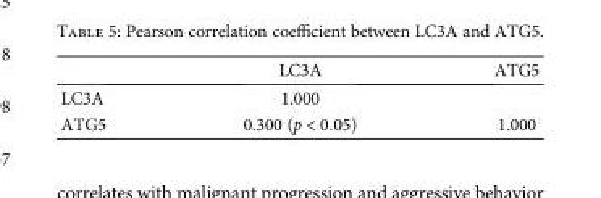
<table><thead><tr><td></td><td>LC3A</td><td>ATG5</td></tr></thead><tbody><tr><td>LC3A</td><td>1.000</td><td></td></tr><tr><td>ATG5</td><td>0.300 (p &lt; 0 05)</td><td>1.000</td></tr></tbody></table>